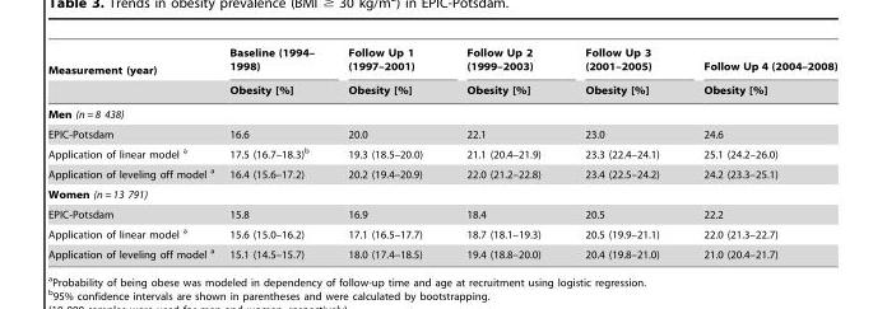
<table><thead><tr><td rowspan="2">Measurement (year)</td><td rowspan="2">Baseline (1994– 1998) Obesity [%]</td><td rowspan="2">Follow Up 1 (1997–2001) Obesity [%]</td><td rowspan="2">Follow Up 2 (1999–2003) Obesity [%]</td><td rowspan="2">Follow Up 3 (2001–2005) Obesity [%]</td><td rowspan="2">Follow Up 4 (2004–2008) Obesity [%]</td></tr><tr></tr></thead><tbody><tr><td colspan="6">Men (n = 8 438)</td></tr><tr><td>EPIC-Potsdam</td><td>16.6</td><td>20.0</td><td>22.1</td><td>23.0</td><td>24.6</td></tr><tr><td>Application of linear model a</td><td>17.5 (16.7–18.3)<sup>b</sup></td><td>19.3 (18.5–20.0)</td><td>21.1 (20.4–21.9)</td><td>23.3 (22.4–24.1)</td><td>25.1 (24.2–26.0)</td></tr><tr><td>Application of leveling off model a</td><td>16.4 (15.6–17.2)</td><td>20.2 (19.4–20.9)</td><td>22.0 (21.2–22.8)</td><td>23.4 (22.5–24.2)</td><td>24.2 (23.3–25.1)</td></tr><tr><td colspan="6">Women (n = 13 791)</td></tr><tr><td>EPIC-Potsdam</td><td>15.8</td><td>16.9</td><td>18.4</td><td>20.5</td><td>22.2</td></tr><tr><td>Application of linear model a</td><td>15.6 (15.0–16.2)</td><td>17.1 (16.5–17.7)</td><td>18.7 (18.1–19.3)</td><td>20.5 (19.9–21.1)</td><td>22.0 (21.3–22.7)</td></tr><tr><td>Application of leveling off model a</td><td>15.1 (14.5–15.7)</td><td>18.0 (17.4–18.5)</td><td>19.4 (18.8–20.0)</td><td>20.4 (19.8–21.0)</td><td>21.0 (20.4–21.7)</td></tr></tbody></table>